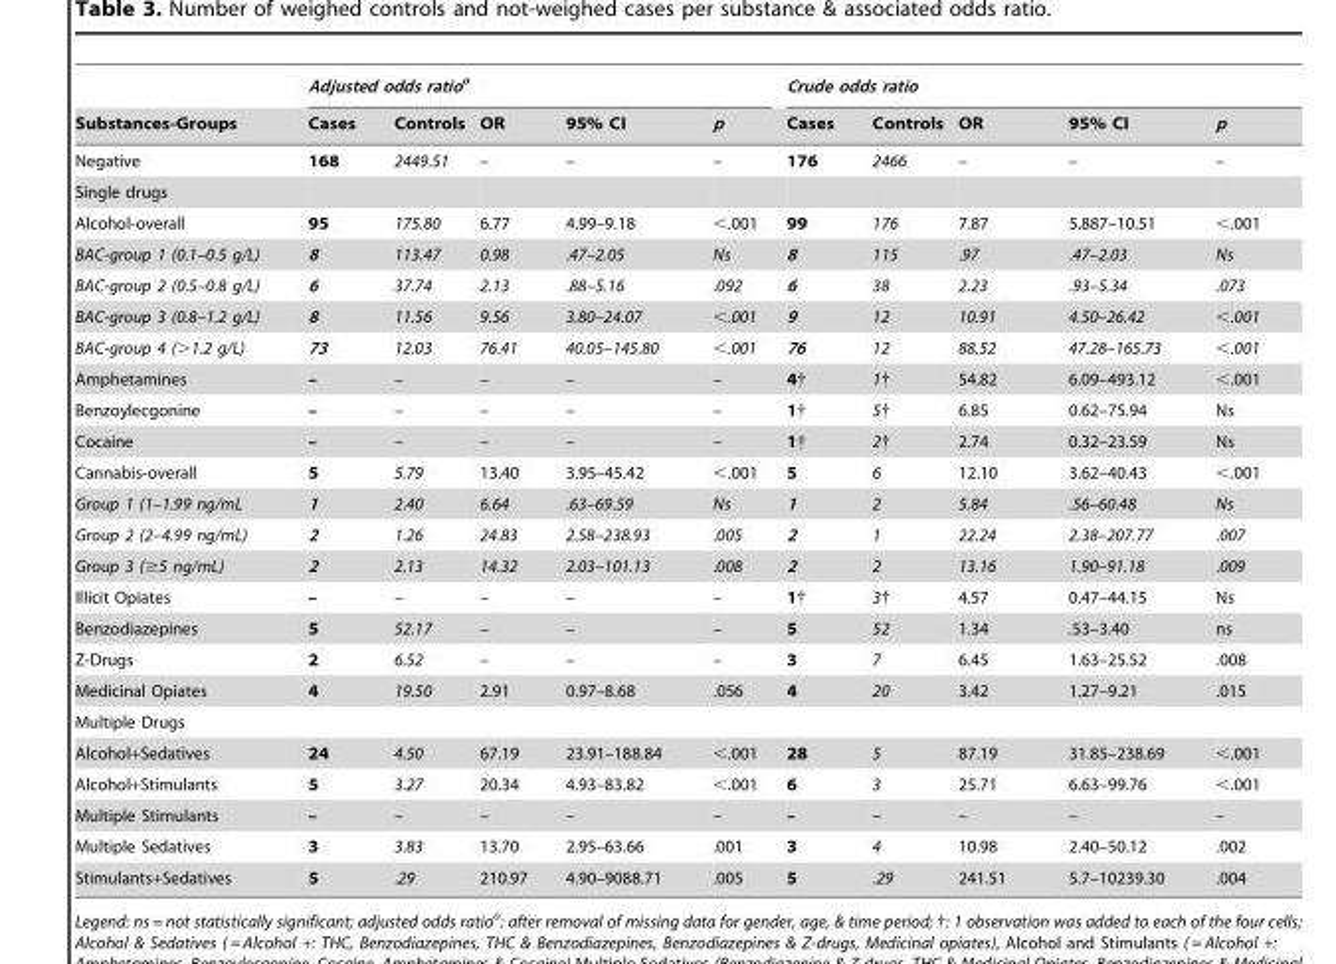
<table><thead><tr><td rowspan="2">Substances-Groups</td><td colspan="5">Adjusted odds ratio<sup>o</sup></td><td colspan="5">Crude odds ratio</td></tr><tr><td>Cases</td><td>Controls</td><td>OR</td><td>95% CI</td><td>p</td><td>Cases</td><td>Controls</td><td>OR</td><td>95% CI</td><td>p</td></tr></thead><tbody><tr><td>Negative</td><td>168</td><td>2449.51</td><td>–</td><td>–</td><td>–</td><td>176</td><td>2466</td><td>–</td><td>–</td><td>–</td></tr><tr><td colspan="11">Single drugs</td></tr><tr><td>Alcohol-overall</td><td>95</td><td>175.80</td><td>6.77</td><td>4.99–9.18</td><td>&lt;.001</td><td>99</td><td>176</td><td>7.87</td><td>5.887–10.51</td><td>&lt;.001</td></tr><tr><td>BAC-group 1 (0.1–0.5 g/L)</td><td>8</td><td>113.47</td><td>0.98</td><td>.47–2.05</td><td>Ns</td><td>8</td><td>115</td><td>.97</td><td>.47–2.03</td><td>Ns</td></tr><tr><td>BAC-group 2 (0.5–0.8 g/L)</td><td>6</td><td>37.74</td><td>2.13</td><td>.88–5.16</td><td>.092</td><td>6</td><td>38</td><td>2.23</td><td>.93–5.34</td><td>.073</td></tr><tr><td>BAC-group 3 (0.8–1.2 g/L)</td><td>8</td><td>11.56</td><td>9.56</td><td>3.80–24.07</td><td>&lt;.001</td><td>9</td><td>12</td><td>10.91</td><td>4.50–26.42</td><td>&lt;.001</td></tr><tr><td>BAC-group 4 (&gt;1.2 g/L)</td><td>73</td><td>12.03</td><td>76.41</td><td>40.05–145.80</td><td>&lt;.001</td><td>76</td><td>12</td><td>88.52</td><td>47.28–165.73</td><td>&lt;.001</td></tr><tr><td>Amphetamines</td><td>–</td><td>–</td><td>–</td><td>–</td><td>–</td><td>4†</td><td>1†</td><td>54.82</td><td>6.09–493.12</td><td>&lt;.001</td></tr><tr><td>Benzoylecgonine</td><td>–</td><td>–</td><td>–</td><td>–</td><td>–</td><td>1†</td><td>5†</td><td>6.85</td><td>0.62–75.94</td><td>Ns</td></tr><tr><td>Cocaine</td><td>–</td><td>–</td><td>–</td><td>–</td><td>–</td><td>1†</td><td>2†</td><td>2.74</td><td>0.32–23.59</td><td>Ns</td></tr><tr><td>Cannabis-overall</td><td>5</td><td>5.79</td><td>13.40</td><td>3.95–45.42</td><td>&lt;.001</td><td>5</td><td>6</td><td>12.10</td><td>3.62–40.43</td><td>&lt;.001</td></tr><tr><td>Group 1 (1–1.99 ng/mL</td><td>1</td><td>2.40</td><td>6.64</td><td>.63–69.59</td><td>Ns</td><td>1</td><td>2</td><td>5.84</td><td>.56–60.48</td><td>Ns</td></tr><tr><td>Group 2 (2–4.99 ng/mL)</td><td>2</td><td>1.26</td><td>24.83</td><td>2.58–238.93</td><td>.005</td><td>2</td><td>1</td><td>22.24</td><td>2.38–207.77</td><td>.007</td></tr><tr><td>Group 3 (≥5 ng/mL)</td><td>2</td><td>2.13</td><td>14.32</td><td>2.03–101.13</td><td>.008</td><td>2</td><td>2</td><td>13.16</td><td>1.90–91.18</td><td>.009</td></tr><tr><td>Illicit Opiates</td><td>–</td><td>–</td><td>–</td><td>–</td><td>–</td><td>1†</td><td>3†</td><td>4.57</td><td>0.47–44.15</td><td>Ns</td></tr><tr><td>Benzodiazepines</td><td>5</td><td>52.17</td><td>–</td><td>–</td><td>–</td><td>5</td><td>52</td><td>1.34</td><td>.53–3.40</td><td>ns</td></tr><tr><td>Z-Drugs</td><td>2</td><td>6.52</td><td>–</td><td>–</td><td>–</td><td>3</td><td>7</td><td>6.45</td><td>1.63–25.52</td><td>.008</td></tr><tr><td>Medicinal Opiates</td><td>4</td><td>19.50</td><td>2.91</td><td>0.97–8.68</td><td>.056</td><td>4</td><td>20</td><td>3.42</td><td>1.27–9.21</td><td>.015</td></tr><tr><td colspan="11">Multiple Drugs</td></tr><tr><td>Alcohol+Sedatives</td><td>24</td><td>4.50</td><td>67.19</td><td>23.91–188.84</td><td>&lt;.001</td><td>28</td><td>5</td><td>87.19</td><td>31.85–238.69</td><td>&lt;.001</td></tr><tr><td>Alcohol+Stimulants</td><td>5</td><td>3.27</td><td>20.34</td><td>4.93–83.82</td><td>&lt;.001</td><td>6</td><td>3</td><td>25.71</td><td>6.63–99.76</td><td>&lt;.001</td></tr><tr><td>Multiple Stimulants</td><td>–</td><td>–</td><td>–</td><td>–</td><td>–</td><td>–</td><td>–</td><td>–</td><td>–</td><td>–</td></tr><tr><td>Multiple Sedatives</td><td>3</td><td>3.83</td><td>13.70</td><td>2.95–63.66</td><td>.001</td><td>3</td><td>4</td><td>10.98</td><td>2.40–50.12</td><td>.002</td></tr><tr><td>Stimulants+Sedatives</td><td>5</td><td>.29</td><td>210.97</td><td>4.90–9088.71</td><td>.005</td><td>5</td><td>.29</td><td>241.51</td><td>5.7–10239.30</td><td>.004</td></tr></tbody></table>